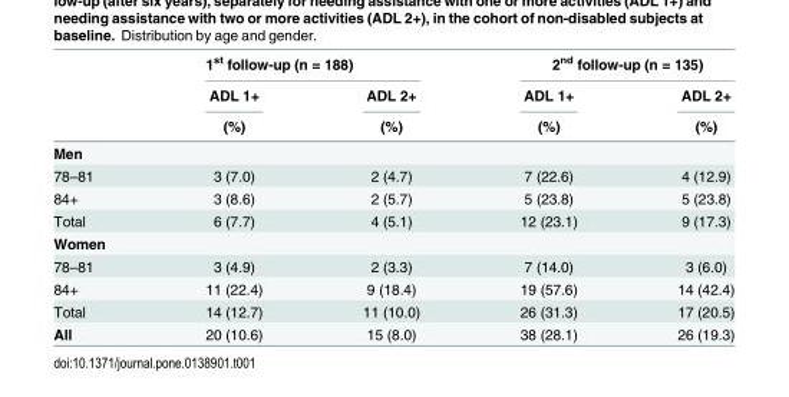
<table><thead><tr><td rowspan="3"></td><td colspan="2">1<sup>st</sup> follow-up (n = 188)</td><td colspan="2">2<sup>nd</sup> follow-up (n = 135)</td></tr><tr><td rowspan="2">ADL 1+ (%)</td><td rowspan="2">ADL 2+ (%)</td><td rowspan="2">ADL 1+ (%)</td><td rowspan="2">ADL 2+ (%)</td></tr><tr></tr></thead><tbody><tr><td colspan="5">Men</td></tr><tr><td>78–81</td><td>3 (7.0)</td><td>2 (4.7)</td><td>7 (22.6)</td><td>4 (12.9)</td></tr><tr><td>84+</td><td>3 (8.6)</td><td>2 (5.7)</td><td>5 (23.8)</td><td>5 (23.8)</td></tr><tr><td>Total</td><td>6 (7.7)</td><td>4 (5.1)</td><td>12 (23.1)</td><td>9 (17.3)</td></tr><tr><td colspan="5">Women</td></tr><tr><td>78–81</td><td>3 (4.9)</td><td>2 (3.3)</td><td>7 (14.0)</td><td>3 (6.0)</td></tr><tr><td>84+</td><td>11 (22.4)</td><td>9 (18.4)</td><td>19 (57.6)</td><td>14 (42.4)</td></tr><tr><td>Total</td><td>14 (12.7)</td><td>11 (10.0)</td><td>26 (31.3)</td><td>17 (20.5)</td></tr><tr><td>All</td><td>20 (10.6)</td><td>15 (8.0)</td><td>38 (28.1)</td><td>26 (19.3)</td></tr></tbody></table>